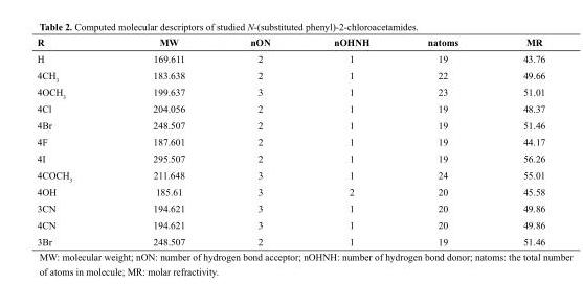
<table><thead><tr><td>R</td><td>MW</td><td>nON</td><td>nOHNH</td><td>natoms</td><td>MR</td></tr></thead><tbody><tr><td>H</td><td>169.611</td><td>2</td><td>1</td><td>19</td><td>43.76</td></tr><tr><td>4CH<sub>3</sub></td><td>183.638</td><td>2</td><td>1</td><td>22</td><td>49.66</td></tr><tr><td>4OCH<sub>3</sub></td><td>199.637</td><td>3</td><td>1</td><td>23</td><td>51.01</td></tr><tr><td>4Cl</td><td>204.056</td><td>2</td><td>1</td><td>19</td><td>48.37</td></tr><tr><td>4Br</td><td>248.507</td><td>2</td><td>1</td><td>19</td><td>51.46</td></tr><tr><td>4F</td><td>187.601</td><td>2</td><td>1</td><td>19</td><td>44.17</td></tr><tr><td>4I</td><td>295.507</td><td>2</td><td>1</td><td>19</td><td>56.26</td></tr><tr><td>4COCH<sub>3</sub></td><td>211.648</td><td>3</td><td>1</td><td>24</td><td>55.01</td></tr><tr><td>4OH</td><td>185.61</td><td>3</td><td>2</td><td>20</td><td>45.58</td></tr><tr><td>3CN</td><td>194.621</td><td>3</td><td>1</td><td>20</td><td>49.86</td></tr><tr><td>4CN</td><td>194.621</td><td>3</td><td>1</td><td>20</td><td>49.86</td></tr><tr><td>3Br</td><td>248.507</td><td>2</td><td>1</td><td>19</td><td>51.46</td></tr></tbody></table>